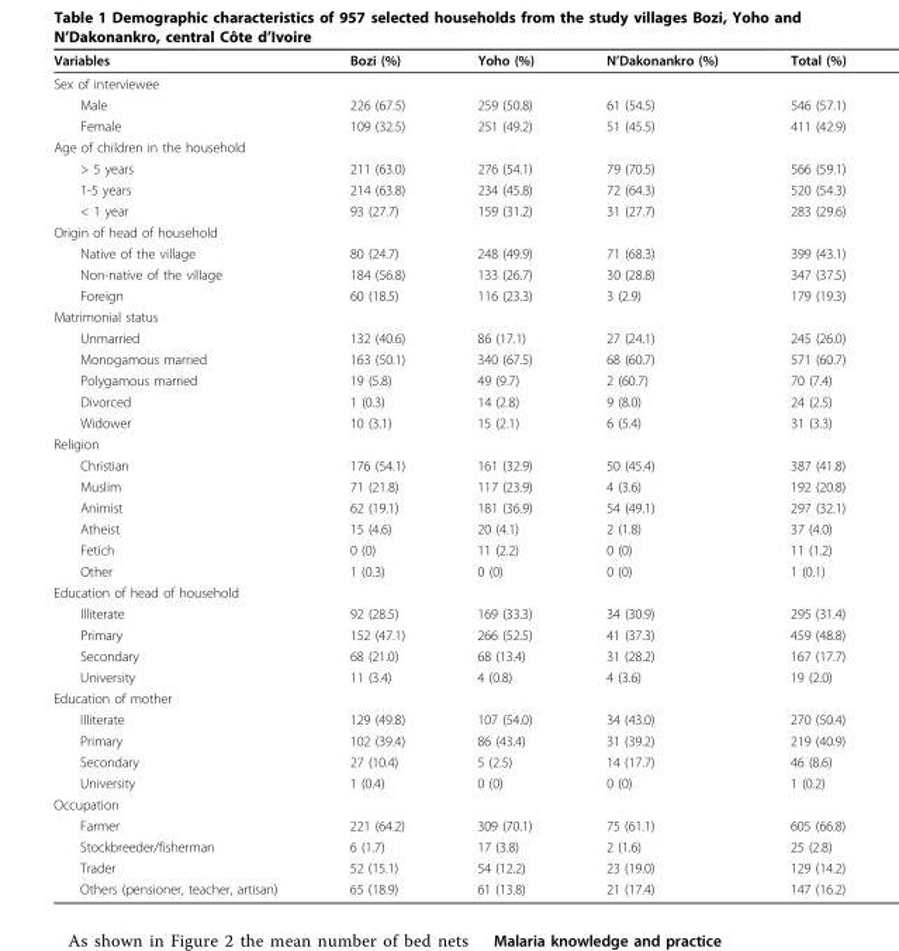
<table><thead><tr><td>Variables</td><td>Bozi (%)</td><td>Yoho (%)</td><td>N’Dakonankro (%)</td><td>Total (%)</td></tr></thead><tbody><tr><td colspan="5">Sex of interviewee</td></tr><tr><td>Male</td><td>226 (67.5)</td><td>259 (50.8)</td><td>61 (54.5)</td><td>546 (57.1)</td></tr><tr><td>Female</td><td>109 (32.5)</td><td>251 (49.2)</td><td>51 (45.5)</td><td>411 (42.9)</td></tr><tr><td colspan="5">Age of children in the household</td></tr><tr><td>&gt; 5 years</td><td>211 (63.0)</td><td>276 (54.1)</td><td>79 (70.5)</td><td>566 (59.1)</td></tr><tr><td>1-5 years</td><td>214 (63.8)</td><td>234 (45.8)</td><td>72 (64.3)</td><td>520 (54.3)</td></tr><tr><td>&lt; 1 year</td><td>93 (27.7)</td><td>159 (31.2)</td><td>31 (27.7)</td><td>283 (29.6)</td></tr><tr><td colspan="5">Origin of head of household</td></tr><tr><td>Native of the village</td><td>80 (24.7)</td><td>248 (49.9)</td><td>71 (68.3)</td><td>399 (43.1)</td></tr><tr><td>Non-native of the village</td><td>184 (56.8)</td><td>133 (26.7)</td><td>30 (28.8)</td><td>347 (37.5)</td></tr><tr><td>Foreign</td><td>60 (18.5)</td><td>116 (23.3)</td><td>3 (2.9)</td><td>179 (19.3)</td></tr><tr><td colspan="5">Matrimonial status</td></tr><tr><td>Unmarried</td><td>132 (40.6)</td><td>86 (17.1)</td><td>27 (24.1)</td><td>245 (26.0)</td></tr><tr><td>Monogamous married</td><td>163 (50.1)</td><td>340 (67.5)</td><td>68 (60.7)</td><td>571 (60.7)</td></tr><tr><td>Polygamous married</td><td>19 (5.8)</td><td>49 (9.7)</td><td>2 (60.7)</td><td>70 (7.4)</td></tr><tr><td>Divorced</td><td>1 (0.3)</td><td>14 (2.8)</td><td>9 (8.0)</td><td>24 (2.5)</td></tr><tr><td>Widower</td><td>10 (3.1)</td><td>15 (2.1)</td><td>6 (5.4)</td><td>31 (3.3)</td></tr><tr><td colspan="5">Religion</td></tr><tr><td>Christian</td><td>176 (54.1)</td><td>161 (32.9)</td><td>50 (45.4)</td><td>387 (41.8)</td></tr><tr><td>Muslim</td><td>71 (21.8)</td><td>117 (23.9)</td><td>4 (3.6)</td><td>192 (20.8)</td></tr><tr><td>Animist</td><td>62 (19.1)</td><td>181 (36.9)</td><td>54 (49.1)</td><td>297 (32.1)</td></tr><tr><td>Atheist</td><td>15 (4.6)</td><td>20 (4.1)</td><td>2 (1.8)</td><td>37 (4.0)</td></tr><tr><td>Fetich</td><td>0 (0)</td><td>11 (2.2)</td><td>0 (0)</td><td>11 (1.2)</td></tr><tr><td>Other</td><td>1 (0.3)</td><td>0 (0)</td><td>0 (0)</td><td>1 (0.1)</td></tr><tr><td colspan="5">Education of head of household</td></tr><tr><td>Illiterate</td><td>92 (28.5)</td><td>169 (33.3)</td><td>34 (30.9)</td><td>295 (31.4)</td></tr><tr><td>Primary</td><td>152 (47.1)</td><td>266 (52.5)</td><td>41 (37.3)</td><td>459 (48.8)</td></tr><tr><td>Secondary</td><td>68 (21.0)</td><td>68 (13.4)</td><td>31 (28.2)</td><td>167 (17.7)</td></tr><tr><td>University</td><td>11 (3.4)</td><td>4 (0.8)</td><td>4 (3.6)</td><td>19 (2.0)</td></tr><tr><td colspan="5">Education of mother</td></tr><tr><td>Illiterate</td><td>129 (49.8)</td><td>107 (54.0)</td><td>34 (43.0)</td><td>270 (50.4)</td></tr><tr><td>Primary</td><td>102 (39.4)</td><td>86 (43.4)</td><td>31 (39.2)</td><td>219 (40.9)</td></tr><tr><td>Secondary</td><td>27 (10.4)</td><td>5 (2.5)</td><td>14 (17.7)</td><td>46 (8.6)</td></tr><tr><td>University</td><td>1 (0.4)</td><td>0 (0)</td><td>0 (0)</td><td>1 (0.2)</td></tr><tr><td colspan="5">Occupation</td></tr><tr><td>Farmer</td><td>221 (64.2)</td><td>309 (70.1)</td><td>75 (61.1)</td><td>605 (66.8)</td></tr><tr><td>Stockbreeder/fisherman</td><td>6 (1.7)</td><td>17 (3.8)</td><td>2 (1.6)</td><td>25 (2.8)</td></tr><tr><td>Trader</td><td>52 (15.1)</td><td>54 (12.2)</td><td>23 (19.0)</td><td>129 (14.2)</td></tr><tr><td>Others (pensioner, teacher, artisan)</td><td>65 (18.9)</td><td>61 (13.8)</td><td>21 (17.4)</td><td>147 (16.2)</td></tr></tbody></table>